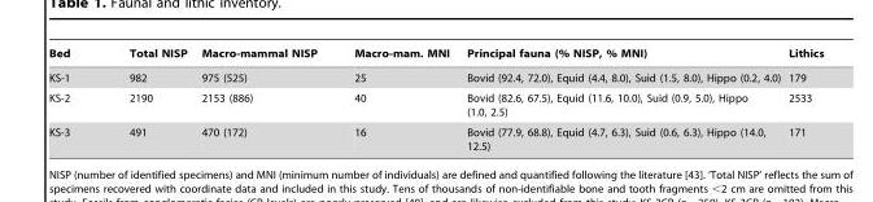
<table><thead><tr><td>Bed</td><td>Total NISP</td><td>Macro-mammal NISP</td><td>Macro-mam. MNI</td><td>Principal fauna (% NISP, % MNI)</td><td>Lithics</td></tr></thead><tbody><tr><td>KS-1</td><td>982</td><td>975 (525)</td><td>25</td><td>Bovid (92.4, 72.0), Equid (4.4, 8.0), Suid (1.5, 8.0), Hippo (0.2, 4.0)</td><td>179</td></tr><tr><td>KS-2</td><td>2190</td><td>2153 (886)</td><td>40</td><td>Bovid (82.6, 67.5), Equid (11.6, 10.0), Suid (0.9, 5.0), Hippo (1.0, 2.5)</td><td>2533</td></tr><tr><td>KS-3</td><td>491</td><td>470 (172)</td><td>16</td><td>Bovid (77.9, 68.8), Equid (4.7, 6.3), Suid (0.6, 6.3), Hippo (14.0, 12.5)</td><td>171</td></tr></tbody></table>